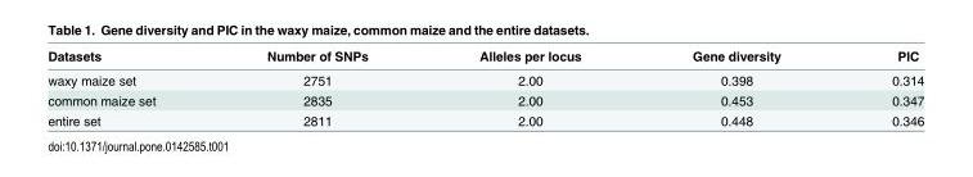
<table><thead><tr><td>Datasets</td><td>Number of SNPs</td><td>Alleles per locus</td><td>Gene diversity</td><td>PIC</td></tr></thead><tbody><tr><td>waxy maize set</td><td>2751</td><td>2.00</td><td>0.398</td><td>0.314</td></tr><tr><td>common maize set</td><td>2835</td><td>2.00</td><td>0.453</td><td>0.347</td></tr><tr><td>entire set</td><td>2811</td><td>2.00</td><td>0.448</td><td>0.346</td></tr></tbody></table>